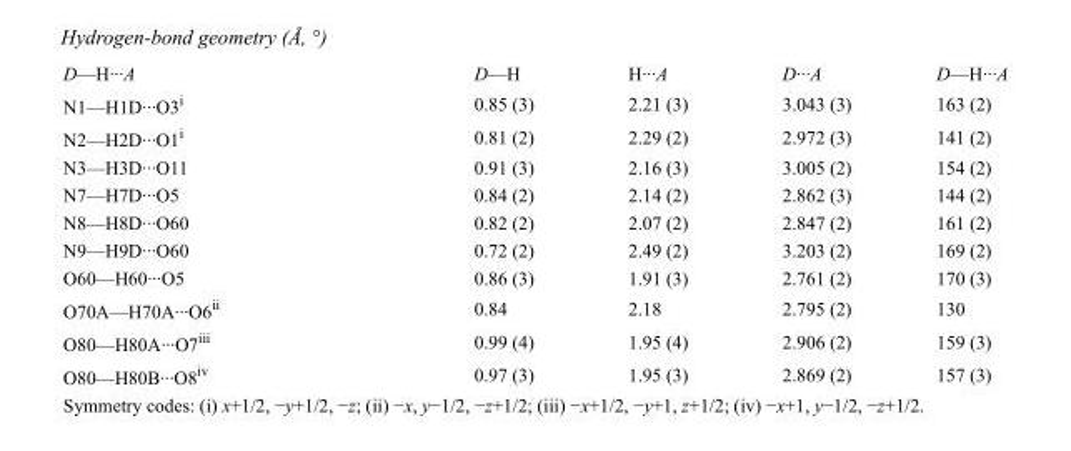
<table><tbody><tr><td>D—H···A</td><td>D—H</td><td>H···A</td><td>D···A</td><td>D—H···A</td></tr><tr><td>N1—H1D···O3<sup>i</sup></td><td>0.85 (3)</td><td>2.21 (3)</td><td>3.043 (3)</td><td>163 (2)</td></tr><tr><td>N2—H2D···O1<sup>i</sup></td><td>0.81 (2)</td><td>2.29 (2)</td><td>2.972 (3)</td><td>141 (2)</td></tr><tr><td>N3—H3D···O11</td><td>0.91 (3)</td><td>2.16 (3)</td><td>3.005 (2)</td><td>154 (2)</td></tr><tr><td>N7—H7D···O5</td><td>0.84 (2)</td><td>2.14 (2)</td><td>2.862 (3)</td><td>144 (2)</td></tr><tr><td>N8—H8D···O60</td><td>0.82 (2)</td><td>2.07 (2)</td><td>2.847 (2)</td><td>161 (2)</td></tr><tr><td>N9—H9D···O60</td><td>0.72 (2)</td><td>2.49 (2)</td><td>3.203 (2)</td><td>169 (2)</td></tr><tr><td>O60—H60···O5</td><td>0.86 (3)</td><td>1.91 (3)</td><td>2.761 (2)</td><td>170 (3)</td></tr><tr><td>O70A—H70A···O6<sup>ii</sup></td><td>0.84</td><td>2.18</td><td>2.795 (2)</td><td>130</td></tr><tr><td>O80—H80A···O7<sup>iii</sup></td><td>0.99 (4)</td><td>1.95 (4)</td><td>2.906 (2)</td><td>159 (3)</td></tr><tr><td>O80—H80B···O8<sup>iv</sup></td><td>0.97 (3)</td><td>1.95 (3)</td><td>2.869 (2)</td><td>157 (3)</td></tr></tbody></table>